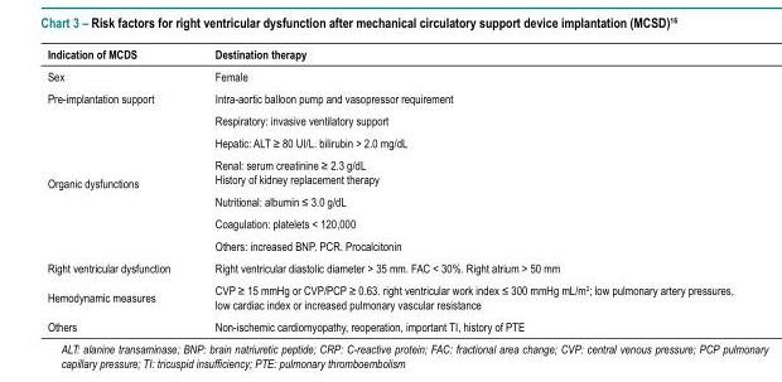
<table><thead><tr><td>Indication of MCDS</td><td>Destination therapy</td></tr></thead><tbody><tr><td>Sex</td><td>Female</td></tr><tr><td>Pre‑implantation support</td><td>Intra‑aortic balloon pump and vasopressor requirement</td></tr><tr><td rowspan="6">Organic dysfunctions</td><td>Respiratory: invasive ventilatory support</td></tr><tr><td>Hepatic: ALT ≥ 80 UI/L. bilirubin &gt; 2.0 mg/dL</td></tr><tr><td>Renal: serum creatinine ≥ 2.3 g/dL History of kidney replacement therapy</td></tr><tr><td>Nutritional: albumin ≤ 3.0 g/dL</td></tr><tr><td>Coagulation: platelets &lt; 120,000</td></tr><tr><td>Others: increased BNP. PCR. Procalcitonin</td></tr><tr><td>Right ventricular dysfunction</td><td>Right ventricular diastolic diameter &gt; 35 mm. FAC &lt; 30%. Right atrium &gt; 50 mm</td></tr><tr><td>Hemodynamic measures</td><td>CVP ≥ 15 mmHg or CVP/PCP ≥ 0.63. right ventricular work index ≤ 300 mmHg mL/m<sup>2</sup>; low pulmonary artery pressures, low cardiac index or increased pulmonary vascular resistance</td></tr><tr><td>Others</td><td>Non‑ischemic cardiomyopathy, reoperation, important TI, history of PTE</td></tr></tbody></table>